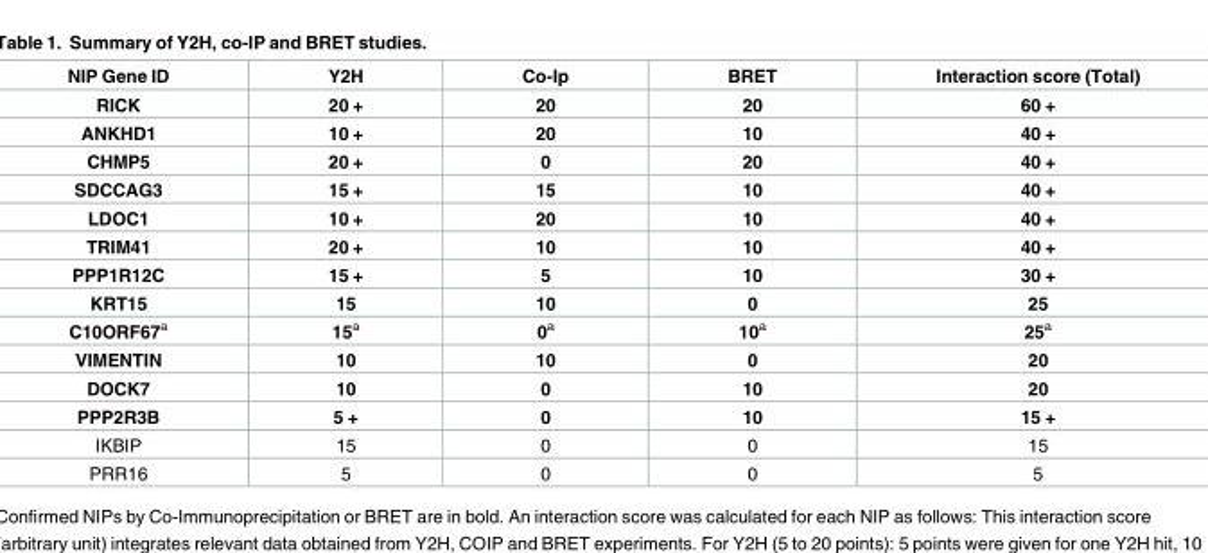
<table><thead><tr><td>NIP Gene ID</td><td>Y2H</td><td>Co-Ip</td><td>BRET</td><td>Interaction score (Total)</td></tr></thead><tbody><tr><td>RICK</td><td>20 +</td><td>20</td><td>20</td><td>60 +</td></tr><tr><td>ANKHD1</td><td>10 +</td><td>20</td><td>10</td><td>40 +</td></tr><tr><td>CHMP5</td><td>20 +</td><td>0</td><td>20</td><td>40 +</td></tr><tr><td>SDCCAG3</td><td>15 +</td><td>15</td><td>10</td><td>40 +</td></tr><tr><td>LDOC1</td><td>10 +</td><td>20</td><td>10</td><td>40 +</td></tr><tr><td>TRIM41</td><td>20 +</td><td>10</td><td>10</td><td>40 +</td></tr><tr><td>PPP1R12C</td><td>15 +</td><td>5</td><td>10</td><td>30 +</td></tr><tr><td>KRT15</td><td>15</td><td>10</td><td>0</td><td>25</td></tr><tr><td>C10ORF67<sup>a</sup></td><td>15<sup>a</sup></td><td>0<sup>a</sup></td><td>10<sup>a</sup></td><td>25<sup>a</sup></td></tr><tr><td>VIMENTIN</td><td>10</td><td>10</td><td>0</td><td>20</td></tr><tr><td>DOCK7</td><td>10</td><td>0</td><td>10</td><td>20</td></tr><tr><td>PPP2R3B</td><td>5 +</td><td>0</td><td>10</td><td>15 +</td></tr><tr><td>IKBIP</td><td>15</td><td>0</td><td>0</td><td>15</td></tr><tr><td>PRR16</td><td>5</td><td>0</td><td>0</td><td>5</td></tr></tbody></table>